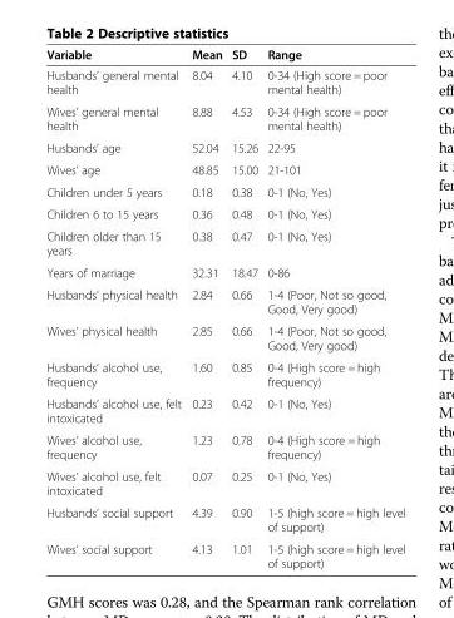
<table><thead><tr><td>Variable</td><td>Mean</td><td>SD</td><td>Range</td></tr></thead><tbody><tr><td>Husbands’ general mental health</td><td>8.04</td><td>4.10</td><td>0-34 (High score = poor mental health)</td></tr><tr><td>Wives’ general mental health</td><td>8.88</td><td>4.53</td><td>0-34 (High score = poor mental health)</td></tr><tr><td>Husbands’ age</td><td>52.04</td><td>15.26</td><td>22-95</td></tr><tr><td>Wives’ age</td><td>48.85</td><td>15.00</td><td>21-101</td></tr><tr><td>Children under 5 years</td><td>0.18</td><td>0.38</td><td>0-1 (No, Yes)</td></tr><tr><td>Children 6 to 15 years</td><td>0.36</td><td>0.48</td><td>0-1 (No, Yes)</td></tr><tr><td>Children older than 15 years</td><td>0.38</td><td>0.47</td><td>0-1 (No, Yes)</td></tr><tr><td>Years of marriage</td><td>32.31</td><td>18.47</td><td>0-86</td></tr><tr><td>Husbands’ physical health</td><td>2.84</td><td>0.66</td><td>1-4 (Poor, Not so good, Good, Very good)</td></tr><tr><td>Wives’ physical health</td><td>2.85</td><td>0.66</td><td>1-4 (Poor, Not so good, Good, Very good)</td></tr><tr><td>Husbands’ alcohol use, frequency</td><td>1.60</td><td>0.85</td><td>0-4 (High score = high frequency)</td></tr><tr><td>Husbands’ alcohol use, felt intoxicated</td><td>0.23</td><td>0.42</td><td>0-1 (No, Yes)</td></tr><tr><td>Wives’ alcohol use, frequency</td><td>1.23</td><td>0.78</td><td>0-4 (High score = high frequency)</td></tr><tr><td>Wives’ alcohol use, felt intoxicated</td><td>0.07</td><td>0.25</td><td>0-1 (No, Yes)</td></tr><tr><td>Husbands’ social support</td><td>4.39</td><td>0.90</td><td>1-5 (high score = high level of support)</td></tr><tr><td>Wives’ social support</td><td>4.13</td><td>1.01</td><td>1-5 (high score = high level of support)</td></tr></tbody></table>